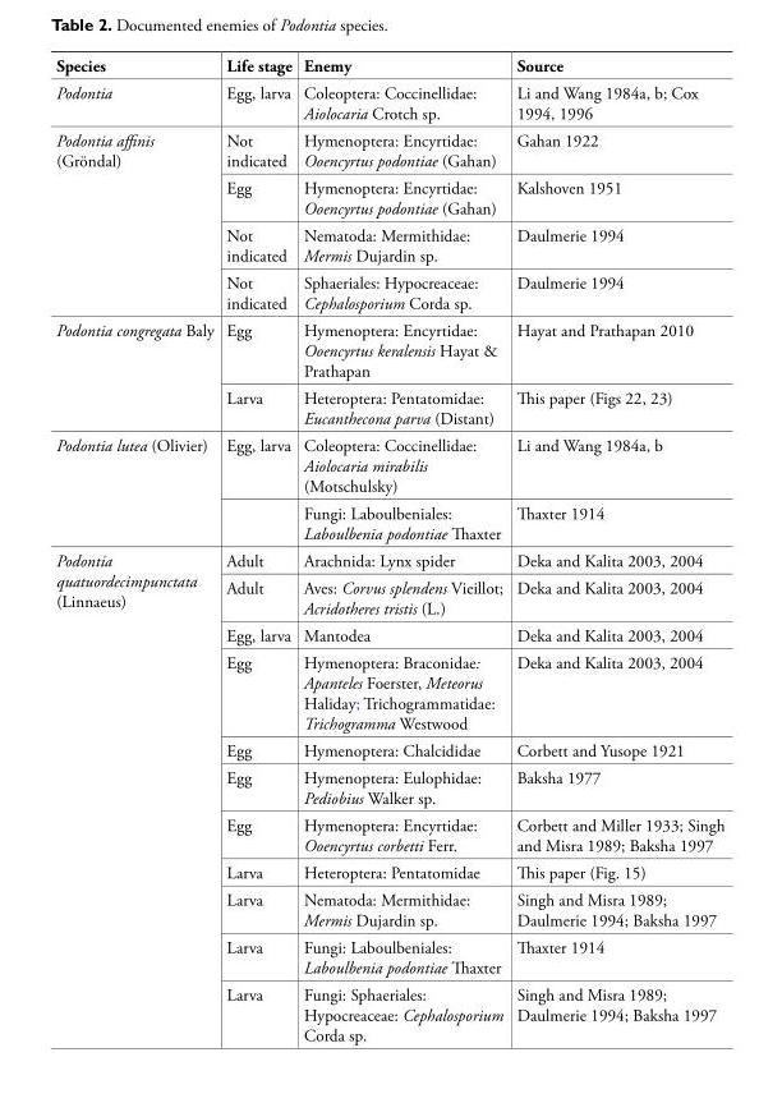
<table><tbody><tr><td>Species</td><td>Life stage</td><td>Enemy</td><td>Source</td></tr><tr><td>Podontia</td><td>Egg, larva</td><td>Coleoptera: Coccinellidae: Aiolocaria Crotch sp.</td><td>Li and Wang 1984a, b; Cox 1994, 1996</td></tr><tr><td rowspan="4">Podontia affinis (Gröndal)</td><td>Not indicated</td><td>Hymenoptera: Encyrtidae: Ooencyrtus podontiae (Gahan)</td><td>Gahan 1922</td></tr><tr><td>Egg</td><td>Hymenoptera: Encyrtidae: Ooencyrtus podontiae (Gahan)</td><td>Kalshoven 1951</td></tr><tr><td>Not indicated</td><td>Nematoda: Mermithidae: Mermis Dujardin sp.</td><td>Daulmerie 1994</td></tr><tr><td>Not indicated</td><td>Sphaeriales: Hypocreaceae: Cephalosporium Corda sp.</td><td>Daulmerie 1994</td></tr><tr><td rowspan="2">Podontia congregata Baly</td><td>Egg</td><td>Hymenoptera: Encyrtidae: Ooencyrtus keralensis Hayat &amp; Prathapan</td><td>Hayat and Prathapan 2010</td></tr><tr><td>Larva</td><td>Heteroptera: Pentatomidae: Eucanthecona parva (Distant)</td><td>This paper (Figs 22, 23)</td></tr><tr><td rowspan="2">Podontia lutea (Olivier)</td><td>Egg, larva</td><td>Coleoptera: Coccinellidae: Aiolocaria mirabilis (Motschulsky)</td><td>Li and Wang 1984a, b</td></tr><tr><td></td><td>Fungi: Laboulbeniales: Laboulbenia podontiae Thaxter</td><td>Thaxter 1914</td></tr><tr><td rowspan="11">Podontia quatuordecimpunctata (Linnaeus)</td><td>Adult</td><td>Arachnida: Lynx spider</td><td>Deka and Kalita 2003, 2004</td></tr><tr><td>Adult</td><td>Aves: Corvus splendens Vieillot; Acridotheres tristis (L.)</td><td>Deka and Kalita 2003, 2004</td></tr><tr><td>Egg, larva</td><td>Mantodea</td><td>Deka and Kalita 2003, 2004</td></tr><tr><td>Egg</td><td>Hymenoptera: Braconidae: Apanteles Foerster, Meteorus Haliday; Trichogrammatidae: Trichogramma Westwood</td><td>Deka and Kalita 2003, 2004</td></tr><tr><td>Egg</td><td>Hymenoptera: Chalcididae</td><td>Corbett and Yusope 1921</td></tr><tr><td>Egg</td><td>Hymenoptera: Eulophidae: Pediobius Walker sp.</td><td>Baksha 1977</td></tr><tr><td>Egg</td><td>Hymenoptera: Encyrtidae: Ooencyrtus corbetti Ferr.</td><td>Corbett and Miller 1933; Singh and Misra 1989; Baksha 1997</td></tr><tr><td>Larva</td><td>Heteroptera: Pentatomidae</td><td>This paper (Fig. 15)</td></tr><tr><td>Larva</td><td>Nematoda: Mermithidae: Mermis Dujardin sp.</td><td>Singh and Misra 1989; Daulmerie 1994; Baksha 1997</td></tr><tr><td>Larva</td><td>Fungi: Laboulbeniales: Laboulbenia podontiae Thaxter</td><td>Thaxter 1914</td></tr><tr><td>Larva</td><td>Fungi: Sphaeriales: Hypocreaceae: Cephalosporium Corda sp.</td><td>Singh and Misra 1989; Daulmerie 1994; Baksha 1997</td></tr></tbody></table>